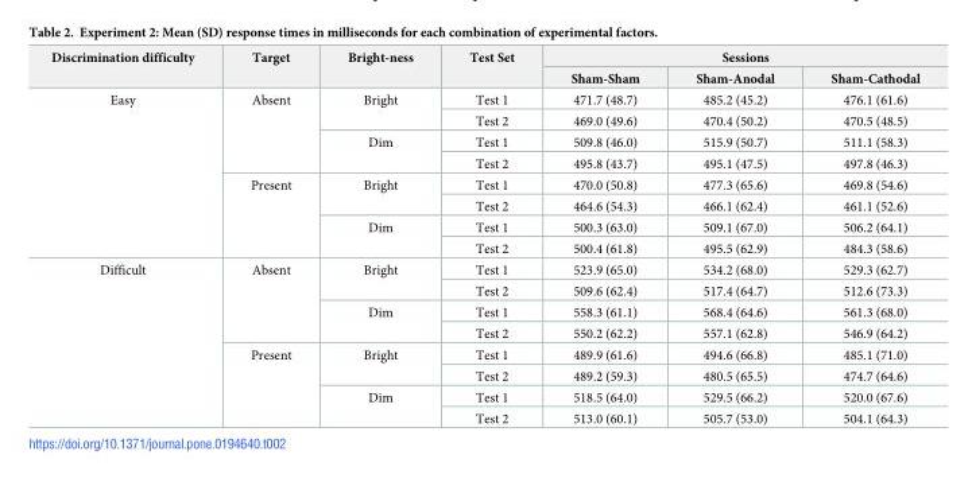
<table><thead><tr><td rowspan="2">Discrimination difficulty</td><td rowspan="2">Target</td><td rowspan="2">Bright-ness</td><td rowspan="2">Test Set</td><td colspan="3">Sessions</td></tr><tr><td>Sham-Sham</td><td>Sham-Anodal</td><td>Sham-Cathodal</td></tr></thead><tbody><tr><td rowspan="8">Easy</td><td rowspan="4">Absent</td><td rowspan="2">Bright</td><td>Test 1</td><td>471.7 (48.7)</td><td>485.2 (45.2)</td><td>476.1 (61.6)</td></tr><tr><td>Test 2</td><td>469.0 (49.6)</td><td>470.4 (50.2)</td><td>470.5 (48.5)</td></tr><tr><td rowspan="2">Dim</td><td>Test 1</td><td>509.8 (46.0)</td><td>515.9 (50.7)</td><td>511.1 (58.3)</td></tr><tr><td>Test 2</td><td>495.8 (43.7)</td><td>495.1 (47.5)</td><td>497.8 (46.3)</td></tr><tr><td rowspan="4">Present</td><td rowspan="2">Bright</td><td>Test 1</td><td>470.0 (50.8)</td><td>477.3 (65.6)</td><td>469.8 (54.6)</td></tr><tr><td>Test 2</td><td>464.6 (54.3)</td><td>466.1 (62.4)</td><td>461.1 (52.6)</td></tr><tr><td rowspan="2">Dim</td><td>Test 1</td><td>500.3 (63.0)</td><td>509.1 (67.0)</td><td>506.2 (64.1)</td></tr><tr><td>Test 2</td><td>500.4 (61.8)</td><td>495.5 (62.9)</td><td>484.3 (58.6)</td></tr><tr><td rowspan="8">Difficult</td><td rowspan="4">Absent</td><td rowspan="2">Bright</td><td>Test 1</td><td>523.9 (65.0)</td><td>534.2 (68.0)</td><td>529.3 (62.7)</td></tr><tr><td>Test 2</td><td>509.6 (62.4)</td><td>517.4 (64.7)</td><td>512.6 (73.3)</td></tr><tr><td rowspan="2">Dim</td><td>Test 1</td><td>558.3 (61.1)</td><td>568.4 (64.6)</td><td>561.3 (68.0)</td></tr><tr><td>Test 2</td><td>550.2 (62.2)</td><td>557.1 (62.8)</td><td>546.9 (64.2)</td></tr><tr><td rowspan="4">Present</td><td rowspan="2">Bright</td><td>Test 1</td><td>489.9 (61.6)</td><td>494.6 (66.8)</td><td>485.1 (71.0)</td></tr><tr><td>Test 2</td><td>489.2 (59.3)</td><td>480.5 (65.5)</td><td>474.7 (64.6)</td></tr><tr><td rowspan="2">Dim</td><td>Test 1</td><td>518.5 (64.0)</td><td>529.5 (66.2)</td><td>520.0 (67.6)</td></tr><tr><td>Test 2</td><td>513.0 (60.1)</td><td>505.7 (53.0)</td><td>504.1 (64.3)</td></tr></tbody></table>